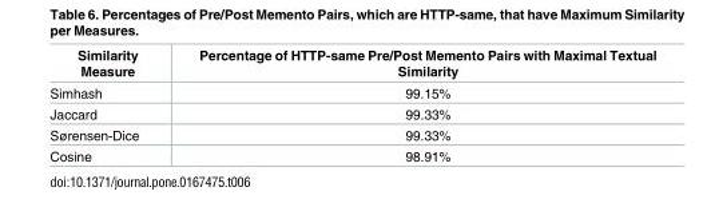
<table><thead><tr><td>Similarity Measure</td><td>Percentage of HTTP-same Pre/Post Memento Pairs with Maximal Textual Similarity</td></tr></thead><tbody><tr><td>Simhash</td><td>99.15%</td></tr><tr><td>Jaccard</td><td>99.33%</td></tr><tr><td>Sørensen-Dice</td><td>99.33%</td></tr><tr><td>Cosine</td><td>98.91%</td></tr></tbody></table>